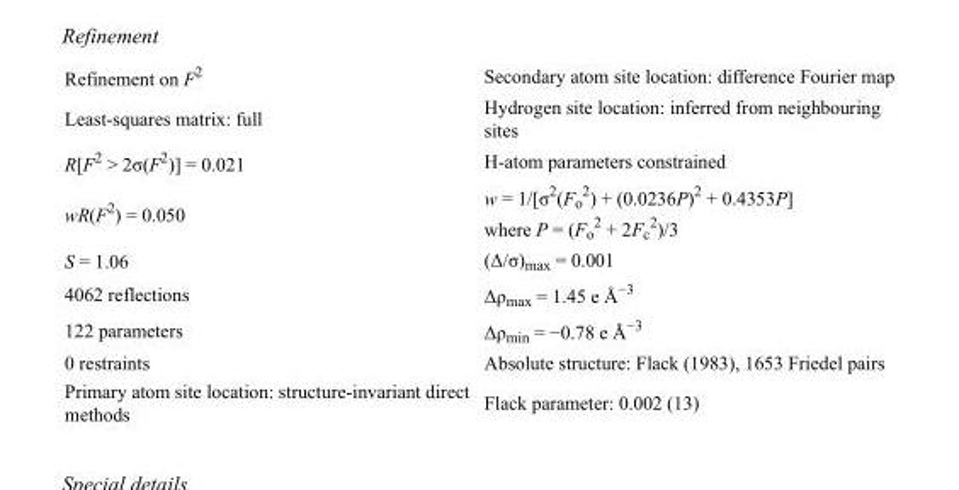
<table><tbody><tr><td>Refinement on F<sup>2</sup></td><td>Secondary atom site location: difference Fourier map</td></tr><tr><td>Least-squares matrix: full</td><td>Hydrogen site location: inferred from neighbouring sites</td></tr><tr><td>R[F<sup>2</sup> &gt; 2σ(F<sup>2</sup>)] = 0.021</td><td>H-atom parameters constrained</td></tr><tr><td>wR(F<sup>2</sup>) = 0.050</td><td>w = 1/[σ<sup>2</sup>(F<sub>o</sub> <sup>2</sup>) + (0.0236P)<sup>2</sup> + 0.4353P] where P = (F<sub>o</sub> <sup>2</sup> + 2F<sub>c</sub> <sup>2</sup>)/3</td></tr><tr><td>S = 1.06</td><td>(Δ/σ)<sub>max</sub> = 0.001</td></tr><tr><td>4062 reflections</td><td>Δρ<sub>max</sub> = 1.45 e Å<sup>−3</sup></td></tr><tr><td>122 parameters</td><td>Δρ<sub>min</sub> = −0.78 e Å<sup>−3</sup></td></tr><tr><td>0 restraints</td><td>Absolute structure: Flack (1983), 1653 Friedel pairs</td></tr><tr><td>Primary atom site location: structure-invariant direct methods</td><td>Flack parameter: 0.002 (13)</td></tr></tbody></table>